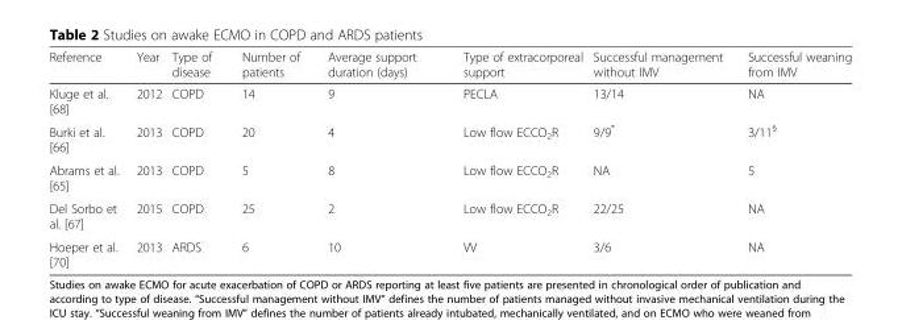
<table><thead><tr><td>Reference</td><td>Year</td><td>Type of disease</td><td>Number of patients</td><td>Average support duration (days)</td><td>Type of extracorporeal support</td><td>Successful management without IMV</td><td>Successful weaning from IMV</td></tr></thead><tbody><tr><td>Kluge et al. [68]</td><td>2012</td><td>COPD</td><td>14</td><td>9</td><td>PECLA</td><td>13/14</td><td>NA</td></tr><tr><td>Burki et al. [66]</td><td>2013</td><td>COPD</td><td>20</td><td>4</td><td>Low flow ECCO<sub>2</sub>R</td><td>9/9*</td><td>3/11<sup>§</sup></td></tr><tr><td>Abrams et al. [65]</td><td>2013</td><td>COPD</td><td>5</td><td>8</td><td>Low flow ECCO<sub>2</sub>R</td><td>NA</td><td>5</td></tr><tr><td>Del Sorbo et al. [67]</td><td>2015</td><td>COPD</td><td>25</td><td>2</td><td>Low flow ECCO<sub>2</sub>R</td><td>22/25</td><td>NA</td></tr><tr><td>Hoeper et al. [70]</td><td>2013</td><td>ARDS</td><td>6</td><td>10</td><td>VV</td><td>3/6</td><td>NA</td></tr></tbody></table>